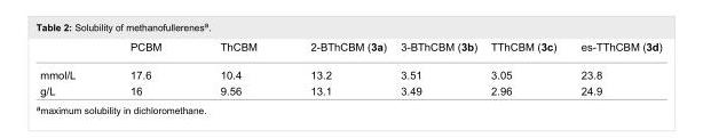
<table><thead><tr><td></td><td>PCBM</td><td>ThCBM</td><td>2-BThCBM (3a)</td><td>3-BThCBM (3b)</td><td>TThCBM (3c)</td><td>es-TThCBM (3d)</td></tr></thead><tbody><tr><td>mmol/L</td><td>17.6</td><td>10.4</td><td>13.2</td><td>3.51</td><td>3.05</td><td>23.8</td></tr><tr><td>g/L</td><td>16</td><td>9.56</td><td>13.1</td><td>3.49</td><td>2.96</td><td>24.9</td></tr></tbody></table>